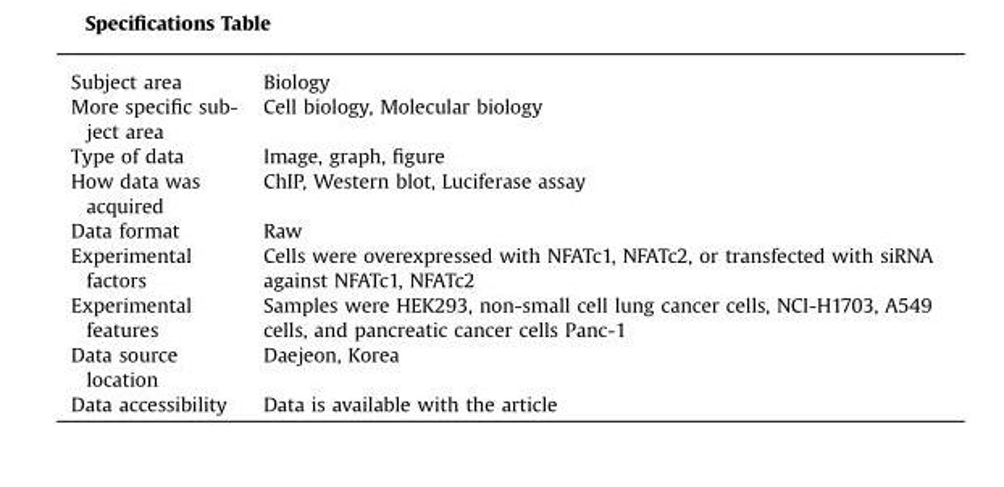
<table><tbody><tr><td>Subject area</td><td>Biology</td></tr><tr><td>More specific sub- ject area</td><td>Cell biology, Molecular biology</td></tr><tr><td>Type of data</td><td>Image, graph, figure</td></tr><tr><td>How data was acquired</td><td>ChIP, Western blot, Luciferase assay</td></tr><tr><td>Data format</td><td>Raw</td></tr><tr><td>Experimental factors</td><td>Cells were overexpressed with NFATc1, NFATc2, or transfected with siRNA against NFATc1, NFATc2</td></tr><tr><td>Experimental features</td><td>Samples were HEK293, non-small cell lung cancer cells, NCI-H1703, A549 cells, and pancreatic cancer cells Panc-1</td></tr><tr><td>Data source location</td><td>Daejeon, Korea</td></tr><tr><td>Data accessibility</td><td>Data is available with the article</td></tr></tbody></table>